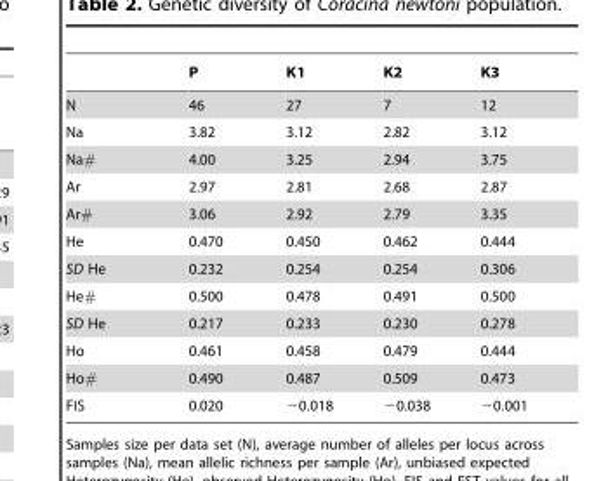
<table><thead><tr><td></td><td>P</td><td>K1</td><td>K2</td><td>K3</td></tr></thead><tbody><tr><td>N</td><td>46</td><td>27</td><td>7</td><td>12</td></tr><tr><td>Na</td><td>3.82</td><td>3.12</td><td>2.82</td><td>3.12</td></tr><tr><td>Na#</td><td>4.00</td><td>3.25</td><td>2.94</td><td>3.75</td></tr><tr><td>Ar</td><td>2.97</td><td>2.81</td><td>2.68</td><td>2.87</td></tr><tr><td>Ar#</td><td>3.06</td><td>2.92</td><td>2.79</td><td>3.35</td></tr><tr><td>He</td><td>0.470</td><td>0.450</td><td>0.462</td><td>0.444</td></tr><tr><td>SD He</td><td>0.232</td><td>0.254</td><td>0.254</td><td>0.306</td></tr><tr><td>He#</td><td>0.500</td><td>0.478</td><td>0.491</td><td>0.500</td></tr><tr><td>SD He</td><td>0.217</td><td>0.233</td><td>0.230</td><td>0.278</td></tr><tr><td>Ho</td><td>0.461</td><td>0.458</td><td>0.479</td><td>0.444</td></tr><tr><td>Ho#</td><td>0.490</td><td>0.487</td><td>0.509</td><td>0.473</td></tr><tr><td>FIS</td><td>0.020</td><td>−0.018</td><td>−0.038</td><td>−0.001</td></tr></tbody></table>